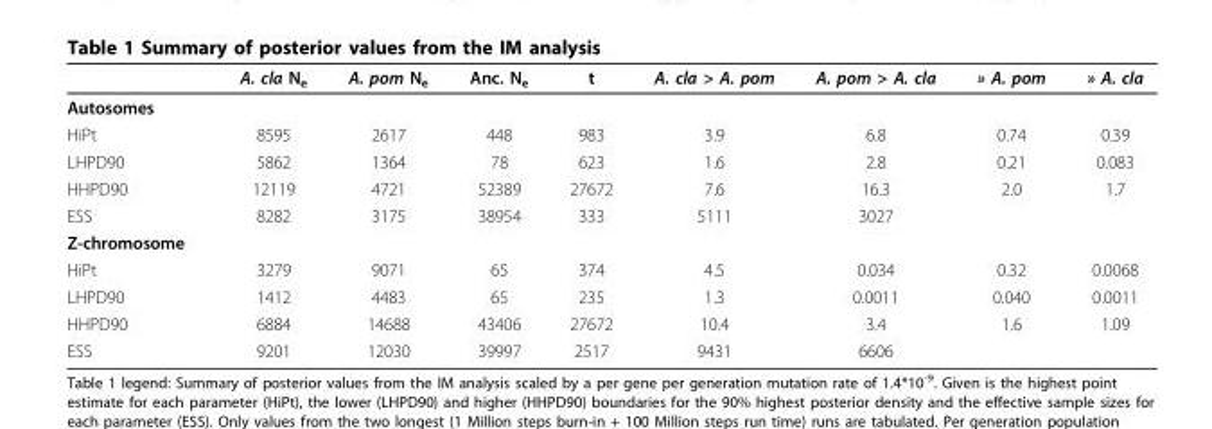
<table><thead><tr><td></td><td>A. cla N<sub>e</sub></td><td>A. pom N<sub>e</sub></td><td>Anc. N<sub>e</sub></td><td>t</td><td>A. cla &gt; A. pom</td><td>A. pom &gt; A. cla</td><td>» A. pom</td><td>» A. cla</td></tr></thead><tbody><tr><td colspan="9">Autosomes</td></tr><tr><td>HiPt</td><td>8595</td><td>2617</td><td>448</td><td>983</td><td>3.9</td><td>6.8</td><td>0.74</td><td>0.39</td></tr><tr><td>LHPD90</td><td>5862</td><td>1364</td><td>78</td><td>623</td><td>1.6</td><td>2.8</td><td>0.21</td><td>0.083</td></tr><tr><td>HHPD90</td><td>12119</td><td>4721</td><td>52389</td><td>27672</td><td>7.6</td><td>16.3</td><td>2.0</td><td>1.7</td></tr><tr><td>ESS</td><td>8282</td><td>3175</td><td>38954</td><td>333</td><td>5111</td><td>3027</td><td></td><td></td></tr><tr><td colspan="9">Z-chromosome</td></tr><tr><td>HiPt</td><td>3279</td><td>9071</td><td>65</td><td>374</td><td>4.5</td><td>0.034</td><td>0.32</td><td>0.0068</td></tr><tr><td>LHPD90</td><td>1412</td><td>4483</td><td>65</td><td>235</td><td>1.3</td><td>0.0011</td><td>0.040</td><td>0.0011</td></tr><tr><td>HHPD90</td><td>6884</td><td>14688</td><td>43406</td><td>27672</td><td>10.4</td><td>3.4</td><td>1.6</td><td>1.09</td></tr><tr><td>ESS</td><td>9201</td><td>12030</td><td>39997</td><td>2517</td><td>9431</td><td>6606</td><td></td><td></td></tr></tbody></table>